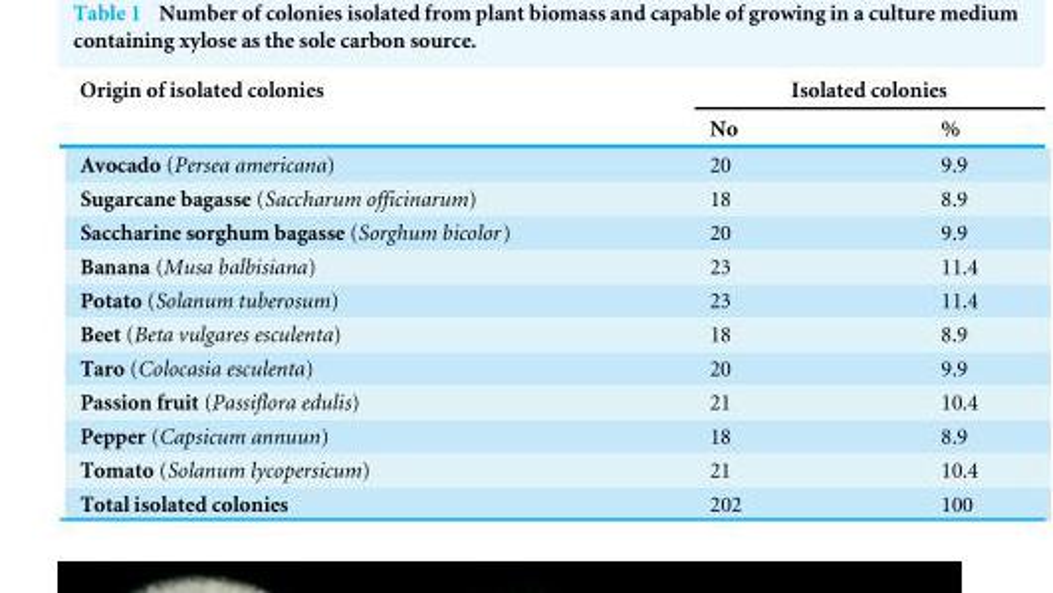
<table><thead><tr><td rowspan="2">Origin of isolated colonies</td><td colspan="2">Isolated colonies</td></tr><tr><td>No</td><td>%</td></tr></thead><tbody><tr><td>;Avocado (Persea americana)</td><td>20</td><td>9.9</td></tr><tr><td>;Sugarcane bagasse (Saccharum officinarum)</td><td>18</td><td>8.9</td></tr><tr><td>;Saccharine sorghum bagasse (Sorghum bicolor)</td><td>20</td><td>9.9</td></tr><tr><td>;Banana (Musa balbisiana)</td><td>23</td><td>11.4</td></tr><tr><td>;Potato (Solanum tuberosum)</td><td>23</td><td>11.4</td></tr><tr><td>;Beet (Beta vulgares esculenta)</td><td>18</td><td>8.9</td></tr><tr><td>;Taro (Colocasia esculenta)</td><td>20</td><td>9.9</td></tr><tr><td>;Passion fruit (Passiflora edulis)</td><td>21</td><td>10.4</td></tr><tr><td>;Pepper (Capsicum annuun)</td><td>18</td><td>8.9</td></tr><tr><td>;Tomato (Solanum lycopersicum)</td><td>21</td><td>10.4</td></tr><tr><td>;Total isolated colonies</td><td>202</td><td>100</td></tr></tbody></table>